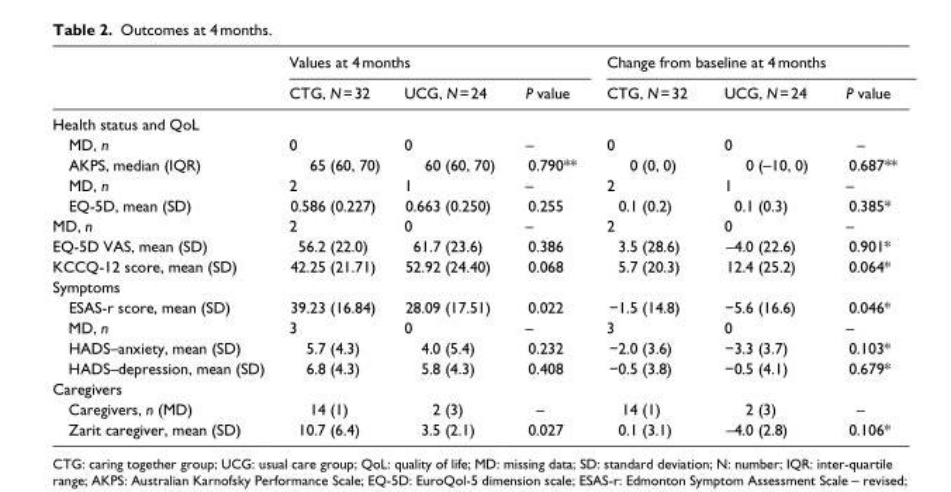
<table><thead><tr><td rowspan="2"></td><td colspan="3">Values at 4 months</td><td colspan="3">Change from baseline at 4 months</td></tr><tr><td>CTG, N = 32</td><td>UCG, N = 24</td><td>P value</td><td>CTG, N = 32</td><td>UCG, N = 24</td><td>P value</td></tr></thead><tbody><tr><td colspan="7">Health status and QoL</td></tr><tr><td>MD, n</td><td>0</td><td>0</td><td>–</td><td>0</td><td>0</td><td>–</td></tr><tr><td>AKPS, median (IQR)</td><td>65 (60, 70)</td><td>60 (60, 70)</td><td>0.790**</td><td>0 (0, 0)</td><td>0 (–10, 0)</td><td>0.687**</td></tr><tr><td>MD, n</td><td>2</td><td>1</td><td>–</td><td>2</td><td>1</td><td>–</td></tr><tr><td>EQ-5D, mean (SD)</td><td>0.586 (0.227)</td><td>0.663 (0.250)</td><td>0.255</td><td>0.1 (0.2)</td><td>0.1 (0.3)</td><td>0.385*</td></tr><tr><td>MD, n</td><td>2</td><td>0</td><td>–</td><td>2</td><td>0</td><td>–</td></tr><tr><td>EQ-5D VAS, mean (SD)</td><td>56.2 (22.0)</td><td>61.7 (23.6)</td><td>0.386</td><td>3.5 (28.6)</td><td>–4.0 (22.6)</td><td>0.901*</td></tr><tr><td>KCCQ-12 score, mean (SD)</td><td>42.25 (21.71)</td><td>52.92 (24.40)</td><td>0.068</td><td>5.7 (20.3)</td><td>12.4 (25.2)</td><td>0.064*</td></tr><tr><td colspan="7">Symptoms</td></tr><tr><td>ESAS-r score, mean (SD)</td><td>39.23 (16.84)</td><td>28.09 (17.51)</td><td>0.022</td><td>−1.5 (14.8)</td><td>−5.6 (16.6)</td><td>0.046*</td></tr><tr><td>MD, n</td><td>3</td><td>0</td><td>–</td><td>3</td><td>0</td><td>–</td></tr><tr><td>HADS–anxiety, mean (SD)</td><td>5.7 (4.3)</td><td>4.0 (5.4)</td><td>0.232</td><td>−2.0 (3.6)</td><td>−3.3 (3.7)</td><td>0.103*</td></tr><tr><td>HADS–depression, mean (SD)</td><td>6.8 (4.3)</td><td>5.8 (4.3)</td><td>0.408</td><td>−0.5 (3.8)</td><td>−0.5 (4.1)</td><td>0.679*</td></tr><tr><td colspan="7">Caregivers</td></tr><tr><td>Caregivers, n (MD)</td><td>14 (1)</td><td>2 (3)</td><td>–</td><td>14 (1)</td><td>2 (3)</td><td>–</td></tr><tr><td>Zarit caregiver, mean (SD)</td><td>10.7 (6.4)</td><td>3.5 (2.1)</td><td>0.027</td><td>0.1 (3.1)</td><td>–4.0 (2.8)</td><td>0.106*</td></tr></tbody></table>